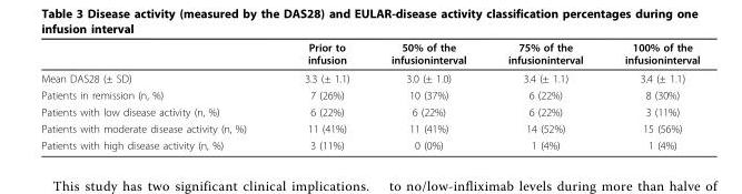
<table><thead><tr><td></td><td>Prior to infusion</td><td>50% of the infusioninterval</td><td>75% of the infusioninterval</td><td>100% of the infusioninterval</td></tr></thead><tbody><tr><td>Mean DAS28 (± SD)</td><td>3.3 (± 1.1)</td><td>3.0 (± 1.0)</td><td>3.4 (± 1.1)</td><td>3.4 (± 1.1)</td></tr><tr><td>Patients in remission (n, %)</td><td>7 (26%)</td><td>10 (37%)</td><td>6 (22%)</td><td>8 (30%)</td></tr><tr><td>Patients with low disease activity (n, %)</td><td>6 (22%)</td><td>6 (22%)</td><td>6 (22%)</td><td>3 (11%)</td></tr><tr><td>Patients with moderate disease activity (n, %)</td><td>11 (41%)</td><td>11 (41%)</td><td>14 (52%)</td><td>15 (56%)</td></tr><tr><td>Patients with high disease activity (n, %)</td><td>3 (11%)</td><td>0 (0%)</td><td>1 (4%)</td><td>1 (4%)</td></tr></tbody></table>